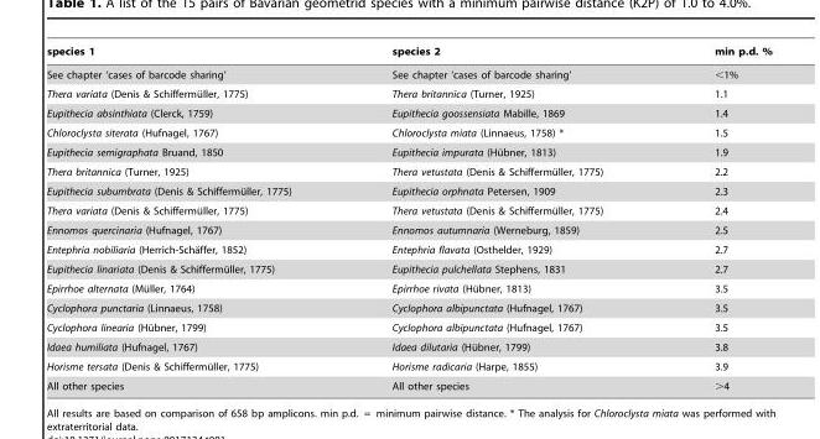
<table><thead><tr><td>species 1</td><td>species 2</td><td>min p.d. %</td></tr></thead><tbody><tr><td>See chapter ‘cases of barcode sharing’</td><td>See chapter ‘cases of barcode sharing’</td><td>&lt;1%</td></tr><tr><td>Thera variata (Denis &amp; Schiffermu¨ller, 1775)</td><td>Thera britannica (Turner, 1925)</td><td>1.1</td></tr><tr><td>Eupithecia absinthiata (Clerck, 1759)</td><td>Eupithecia goossensiata Mabille, 1869</td><td>1.4</td></tr><tr><td>Chloroclysta siterata (Hufnagel, 1767)</td><td>Chloroclysta miata (Linnaeus, 1758) *</td><td>1.5</td></tr><tr><td>Eupithecia semigraphata Bruand, 1850</td><td>Eupithecia impurata (Hu¨bner, 1813)</td><td>1.9</td></tr><tr><td>Thera britannica (Turner, 1925)</td><td>Thera vetustata (Denis &amp; Schiffermu¨ller, 1775)</td><td>2.2</td></tr><tr><td>Eupithecia subumbrata (Denis &amp; Schiffermu¨ller, 1775)</td><td>Eupithecia orphnata Petersen, 1909</td><td>2.3</td></tr><tr><td>Thera variata (Denis &amp; Schiffermu¨ller, 1775)</td><td>Thera vetustata (Denis &amp; Schiffermu¨ller, 1775)</td><td>2.4</td></tr><tr><td>Ennomos quercinaria (Hufnagel, 1767)</td><td>Ennomos autumnaria (Werneburg, 1859)</td><td>2.5</td></tr><tr><td>Entephria nobiliaria (Herrich-Scha¨ffer, 1852)</td><td>Entephria flavata (Osthelder, 1929)</td><td>2.7</td></tr><tr><td>Eupithecia linariata (Denis &amp; Schiffermu¨ller, 1775)</td><td>Eupithecia pulchellata Stephens, 1831</td><td>2.7</td></tr><tr><td>Epirrhoe alternata (Mu¨ller, 1764)</td><td>Epirrhoe rivata (Hu¨bner, 1813)</td><td>3.5</td></tr><tr><td>Cyclophora punctaria (Linnaeus, 1758)</td><td>Cyclophora albipunctata (Hufnagel, 1767)</td><td>3.5</td></tr><tr><td>Cyclophora linearia (Hu¨bner, 1799)</td><td>Cyclophora albipunctata (Hufnagel, 1767)</td><td>3.5</td></tr><tr><td>Idaea humiliata (Hufnagel, 1767)</td><td>Idaea dilutaria (Hu¨bner, 1799)</td><td>3.8</td></tr><tr><td>Horisme tersata (Denis &amp; Schiffermu¨ller, 1775)</td><td>Horisme radicaria (Harpe, 1855)</td><td>3.9</td></tr><tr><td>All other species</td><td>All other species</td><td>&gt;4</td></tr></tbody></table>